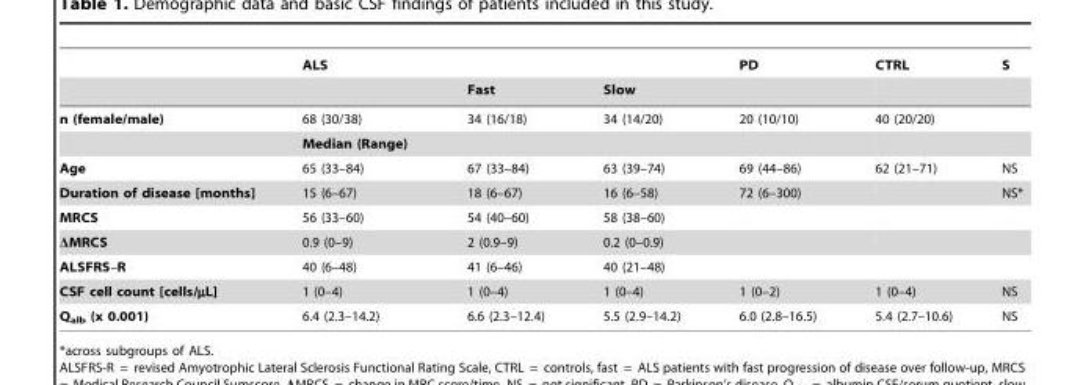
<table><thead><tr><td rowspan="2"></td><td rowspan="2">ALS</td><td rowspan="2">Fast</td><td rowspan="2">Slow</td><td rowspan="2">PD</td><td rowspan="2">CTRL</td><td rowspan="2">S</td></tr><tr></tr></thead><tbody><tr><td rowspan="2">n (female/male)</td><td>68 (30/38)</td><td>34 (16/18)</td><td>34 (14/20)</td><td>20 (10/10)</td><td>40 (20/20)</td><td></td></tr><tr><td colspan="2">Median (Range)</td><td></td><td></td><td></td><td></td></tr><tr><td>Age</td><td>65 (33–84)</td><td>67 (33–84)</td><td>63 (39–74)</td><td>69 (44–86)</td><td>62 (21–71)</td><td>NS</td></tr><tr><td>Duration of disease [months]</td><td>15 (6–67)</td><td>18 (6–67)</td><td>16 (6–58)</td><td>72 (6–300)</td><td></td><td>NS*</td></tr><tr><td>MRCS</td><td>56 (33–60)</td><td>54 (40–60)</td><td>58 (38–60)</td><td></td><td></td><td></td></tr><tr><td>ΔMRCS</td><td>0.9 (0–9)</td><td>2 (0.9–9)</td><td>0.2 (0–0.9)</td><td></td><td></td><td></td></tr><tr><td>ALSFRS–R</td><td>40 (6–48)</td><td>41 (6–46)</td><td>40 (21–48)</td><td></td><td></td><td></td></tr><tr><td>CSF cell count [cells/µL]</td><td>1 (0–4)</td><td>1 (0–4)</td><td>1 (0–4)</td><td>1 (0–2)</td><td>1 (0–4)</td><td>NS</td></tr><tr><td>Q<sub>alb</sub> (x 0.001)</td><td>6.4 (2.3–14.2)</td><td>6.6 (2.3–12.4)</td><td>5.5 (2.9–14.2)</td><td>6.0 (2.8–16.5)</td><td>5.4 (2.7–10.6)</td><td>NS</td></tr></tbody></table>